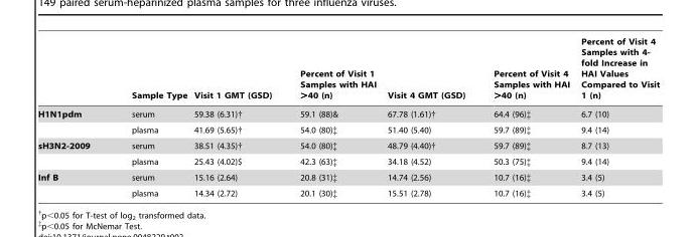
<table><thead><tr><td></td><td>Sample Type</td><td>Visit 1 GMT (GSD)</td><td>Percent of Visit 1 Samples with HAI &gt;40 (n)</td><td>Visit 4 GMT (GSD)</td><td>Percent of Visit 4 Samples with HAI &gt;40 (n)</td><td>Percent of Visit 4 Samples with 4- fold Increase in HAI Values Compared to Visit 1 (n)</td></tr></thead><tbody><tr><td rowspan="2">H1N1pdm</td><td>serum</td><td>59.38 (6.31)†</td><td>59.1 (88)&amp;</td><td>67.78 (1.61)†</td><td>64.4 (96)‡</td><td>6.7 (10)</td></tr><tr><td>plasma</td><td>41.69 (5.65)†</td><td>54.0 (80)‡</td><td>51.40 (5.40)</td><td>59.7 (89)‡</td><td>9.4 (14)</td></tr><tr><td rowspan="2">sH3N2-2009</td><td>serum</td><td>38.51 (4.35)†</td><td>54.0 (80)‡</td><td>48.79 (4.40)†</td><td>59.7 (89)‡</td><td>8.7 (13)</td></tr><tr><td>plasma</td><td>25.43 (4.02)$</td><td>42.3 (63)‡</td><td>34.18 (4.52)</td><td>50.3 (75)‡</td><td>9.4 (14)</td></tr><tr><td rowspan="2">Inf B</td><td>serum</td><td>15.16 (2.64)</td><td>20.8 (31)‡</td><td>14.74 (2.56)</td><td>10.7 (16)‡</td><td>3.4 (5)</td></tr><tr><td>plasma</td><td>14.34 (2.72)</td><td>20.1 (30)‡</td><td>15.51 (2.78)</td><td>10.7 (16)‡</td><td>3.4 (5)</td></tr></tbody></table>